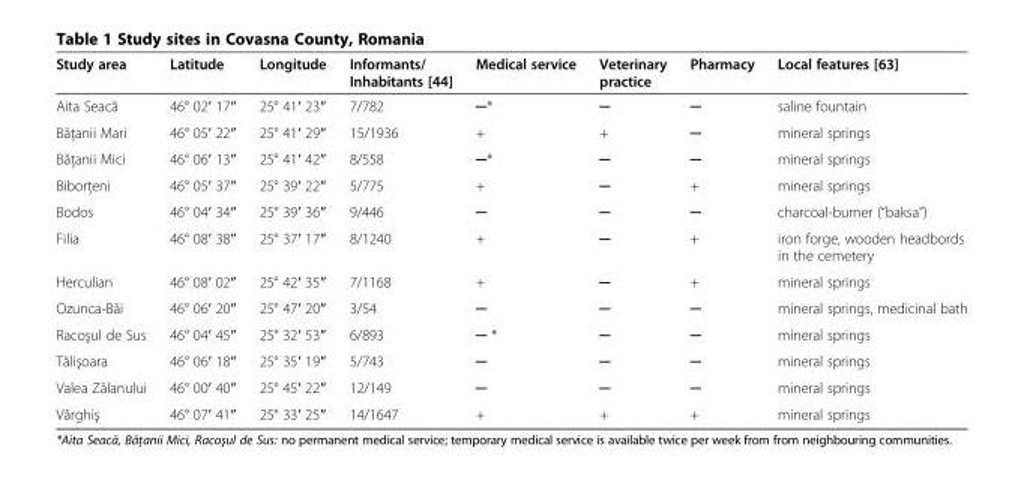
<table><thead><tr><td>Study area</td><td>Latitude</td><td>Longitude</td><td>Informants/ Inhabitants [44]</td><td>Medical service</td><td>Veterinary practice</td><td>Pharmacy</td><td>Local features [63]</td></tr></thead><tbody><tr><td>Aita Seacă</td><td>46° 02′ 17″</td><td>25° 41′ 23″</td><td>7/782</td><td>─*</td><td>─</td><td>─</td><td>saline fountain</td></tr><tr><td>Băţanii Mari</td><td>46° 05′ 22″</td><td>25° 41′ 29″</td><td>15/1936</td><td>+</td><td>+</td><td>─</td><td>mineral springs</td></tr><tr><td>Băţanii Mici</td><td>46° 06′ 13″</td><td>25° 41′ 42″</td><td>8/558</td><td>─*</td><td>─</td><td>─</td><td>mineral springs</td></tr><tr><td>Biborţeni</td><td>46° 05′ 37″</td><td>25° 39′ 22″</td><td>5/775</td><td>+</td><td>─</td><td>+</td><td>mineral springs</td></tr><tr><td>Bodos</td><td>46° 04′ 34″</td><td>25° 39′ 36″</td><td>9/446</td><td>─</td><td>─</td><td>─</td><td>charcoal-burner (“baksa”)</td></tr><tr><td>Filia</td><td>46° 08′ 38″</td><td>25° 37′ 17″</td><td>8/1240</td><td>+</td><td>─</td><td>+</td><td>iron forge, wooden headbords in the cemetery</td></tr><tr><td>Herculian</td><td>46° 08′ 02″</td><td>25° 42′ 35″</td><td>7/1168</td><td>+</td><td>─</td><td>+</td><td>mineral springs</td></tr><tr><td>Ozunca-Băi</td><td>46° 06′ 20″</td><td>25° 47′ 20″</td><td>3/54</td><td>─</td><td>─</td><td>─</td><td>mineral springs, medicinal bath</td></tr><tr><td>Racoşul de Sus</td><td>46° 04′ 45″</td><td>25° 32′ 53″</td><td>6/893</td><td>─ *</td><td>─</td><td>─</td><td>mineral springs</td></tr><tr><td>Tălişoara</td><td>46° 06′ 18″</td><td>25° 35′ 19″</td><td>5/743</td><td>─</td><td>─</td><td>─</td><td>mineral springs</td></tr><tr><td>Valea Zălanului</td><td>46° 00′ 40″</td><td>25° 45′ 22″</td><td>12/149</td><td>─</td><td>─</td><td>─</td><td>mineral springs</td></tr><tr><td>Vârghiş</td><td>46° 07′ 41″</td><td>25° 33′ 25″</td><td>14/1647</td><td>+</td><td>+</td><td>+</td><td>mineral springs</td></tr></tbody></table>